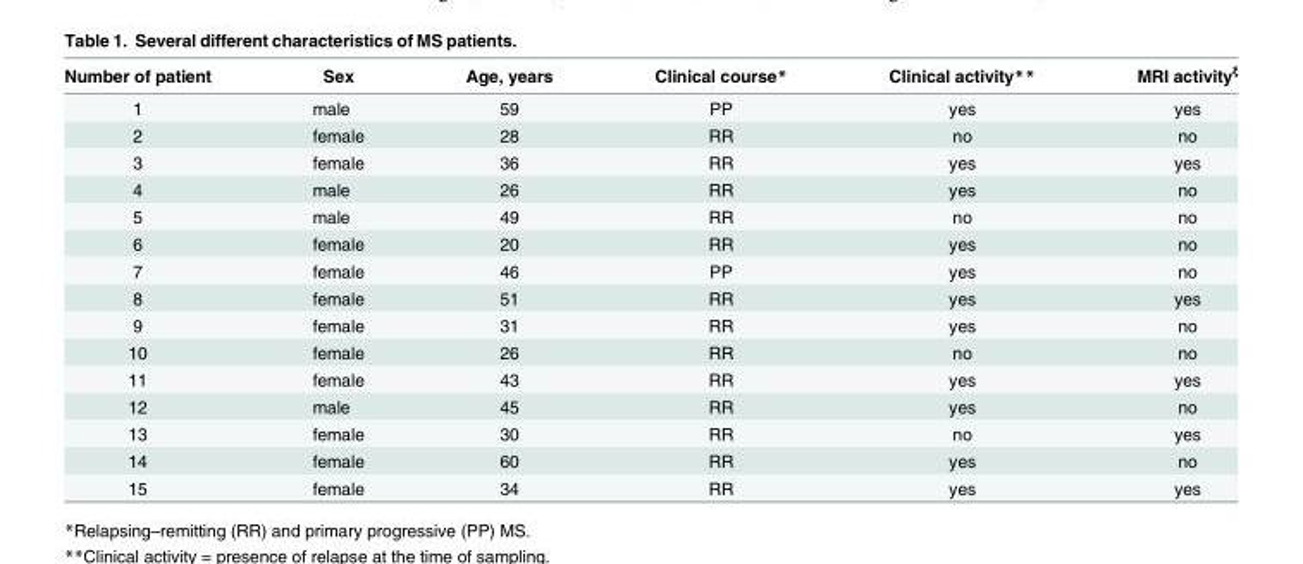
<table><thead><tr><td>Number of patient</td><td>Sex</td><td>Age, years</td><td>Clinical course*</td><td>Clinical activity**</td><td>MRI activity<sup>ξ</sup></td></tr></thead><tbody><tr><td>1</td><td>male</td><td>59</td><td>PP</td><td>yes</td><td>yes</td></tr><tr><td>2</td><td>female</td><td>28</td><td>RR</td><td>no</td><td>no</td></tr><tr><td>3</td><td>female</td><td>36</td><td>RR</td><td>yes</td><td>yes</td></tr><tr><td>4</td><td>male</td><td>26</td><td>RR</td><td>yes</td><td>no</td></tr><tr><td>5</td><td>male</td><td>49</td><td>RR</td><td>no</td><td>no</td></tr><tr><td>6</td><td>female</td><td>20</td><td>RR</td><td>yes</td><td>no</td></tr><tr><td>7</td><td>female</td><td>46</td><td>PP</td><td>yes</td><td>no</td></tr><tr><td>8</td><td>female</td><td>51</td><td>RR</td><td>yes</td><td>yes</td></tr><tr><td>9</td><td>female</td><td>31</td><td>RR</td><td>yes</td><td>no</td></tr><tr><td>10</td><td>female</td><td>26</td><td>RR</td><td>no</td><td>no</td></tr><tr><td>11</td><td>female</td><td>43</td><td>RR</td><td>yes</td><td>yes</td></tr><tr><td>12</td><td>male</td><td>45</td><td>RR</td><td>yes</td><td>no</td></tr><tr><td>13</td><td>female</td><td>30</td><td>RR</td><td>no</td><td>yes</td></tr><tr><td>14</td><td>female</td><td>60</td><td>RR</td><td>yes</td><td>no</td></tr><tr><td>15</td><td>female</td><td>34</td><td>RR</td><td>yes</td><td>yes</td></tr></tbody></table>